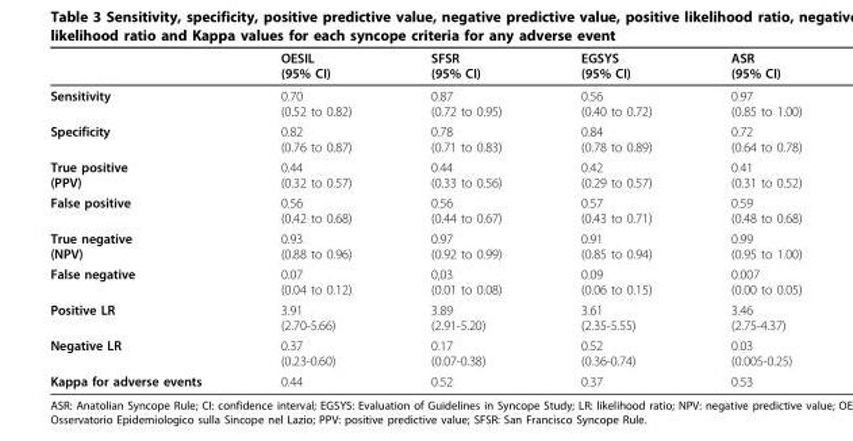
<table><thead><tr><td></td><td>OESIL (95% CI)</td><td>SFSR (95% CI)</td><td>EGSYS (95% CI)</td><td>ASR (95% CI)</td></tr></thead><tbody><tr><td>Sensitivity</td><td>0.70 (0.52 to 0.82)</td><td>0.87 (0.72 to 0.95)</td><td>0.56 (0.40 to 0.72)</td><td>0.97 (0.85 to 1.00)</td></tr><tr><td>Specificity</td><td>0.82 (0.76 to 0.87)</td><td>0.78 (0.71 to 0.83)</td><td>0.84 (0.78 to 0.89)</td><td>0.72 (0.64 to 0.78)</td></tr><tr><td>True positive (PPV)</td><td>0.44 (0.32 to 0.57)</td><td>0.44 (0.33 to 0.56)</td><td>0.42 (0.29 to 0.57)</td><td>0.41 (0.31 to 0.52)</td></tr><tr><td>False positive</td><td>0.56 (0.42 to 0.68)</td><td>0.56 (0.44 to 0.67)</td><td>0.57 (0.43 to 0.71)</td><td>0.59 (0.48 to 0.68)</td></tr><tr><td>True negative (NPV)</td><td>0.93 (0.88 to 0.96)</td><td>0.97 (0.92 to 0.99)</td><td>0.91 (0.85 to 0.94)</td><td>0.99 (0.95 to 1.00)</td></tr><tr><td>False negative</td><td>0.07 (0.04 to 0.12)</td><td>0,03 (0.01 to 0.08)</td><td>0.09 (0.06 to 0.15)</td><td>0.007 (0.00 to 0.05)</td></tr><tr><td>Positive LR</td><td>3.91 (2.70-5.66)</td><td>3.89 (2.91-5.20)</td><td>3.61 (2.35-5.55)</td><td>3.46 (2.75-4.37)</td></tr><tr><td>Negative LR</td><td>0.37 (0.23-0.60)</td><td>0.17 (0.07-0.38)</td><td>0.52 (0.36-0.74)</td><td>0.03 (0.005-0.25)</td></tr><tr><td>Kappa for adverse events</td><td>0.44</td><td>0.52</td><td>0.37</td><td>0.53</td></tr></tbody></table>